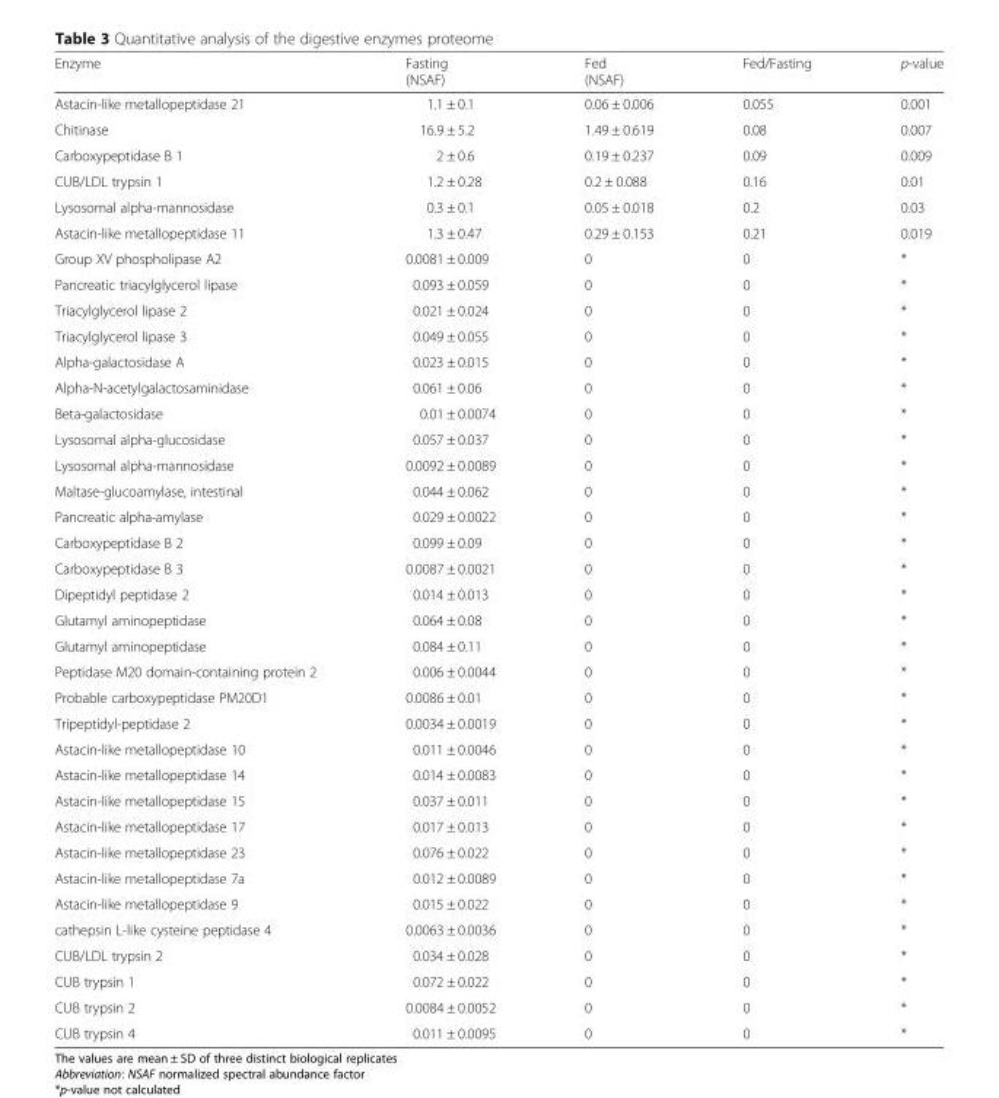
<table><thead><tr><td>Enzyme</td><td>Fasting (NSAF)</td><td>Fed (NSAF)</td><td>Fed/Fasting</td><td>p-value</td></tr></thead><tbody><tr><td>Astacin-like metallopeptidase 21</td><td>1.1 ± 0.1</td><td>0.06 ± 0.006</td><td>0.055</td><td>0.001</td></tr><tr><td>Chitinase</td><td>16.9 ± 5.2</td><td>1.49 ± 0.619</td><td>0.08</td><td>0.007</td></tr><tr><td>Carboxypeptidase B 1</td><td>2 ± 0.6</td><td>0.19 ± 0.237</td><td>0.09</td><td>0.009</td></tr><tr><td>CUB/LDL trypsin 1</td><td>1.2 ± 0.28</td><td>0.2 ± 0.088</td><td>0.16</td><td>0.01</td></tr><tr><td>Lysosomal alpha-mannosidase</td><td>0.3 ± 0.1</td><td>0.05 ± 0.018</td><td>0.2</td><td>0.03</td></tr><tr><td>Astacin-like metallopeptidase 11</td><td>1.3 ± 0.47</td><td>0.29 ± 0.153</td><td>0.21</td><td>0.019</td></tr><tr><td>Group XV phospholipase A2</td><td>0.0081 ± 0.009</td><td>0</td><td>0</td><td>*</td></tr><tr><td>Pancreatic triacylglycerol lipase</td><td>0.093 ± 0.059</td><td>0</td><td>0</td><td>*</td></tr><tr><td>Triacylglycerol lipase 2</td><td>0.021 ± 0.024</td><td>0</td><td>0</td><td>*</td></tr><tr><td>Triacylglycerol lipase 3</td><td>0.049 ± 0.055</td><td>0</td><td>0</td><td>*</td></tr><tr><td>Alpha-galactosidase A</td><td>0.023 ± 0.015</td><td>0</td><td>0</td><td>*</td></tr><tr><td>Alpha-N-acetylgalactosaminidase</td><td>0.061 ± 0.06</td><td>0</td><td>0</td><td>*</td></tr><tr><td>Beta-galactosidase</td><td>0.01 ± 0.0074</td><td>0</td><td>0</td><td>*</td></tr><tr><td>Lysosomal alpha-glucosidase</td><td>0.057 ± 0.037</td><td>0</td><td>0</td><td>*</td></tr><tr><td>Lysosomal alpha-mannosidase</td><td>0.0092 ± 0.0089</td><td>0</td><td>0</td><td>*</td></tr><tr><td>Maltase-glucoamylase, intestinal</td><td>0.044 ± 0.062</td><td>0</td><td>0</td><td>*</td></tr><tr><td>Pancreatic alpha-amylase</td><td>0.029 ± 0.0022</td><td>0</td><td>0</td><td>*</td></tr><tr><td>Carboxypeptidase B 2</td><td>0.099 ± 0.09</td><td>0</td><td>0</td><td>*</td></tr><tr><td>Carboxypeptidase B 3</td><td>0.0087 ± 0.0021</td><td>0</td><td>0</td><td>*</td></tr><tr><td>Dipeptidyl peptidase 2</td><td>0.014 ± 0.013</td><td>0</td><td>0</td><td>*</td></tr><tr><td>Glutamyl aminopeptidase</td><td>0.064 ± 0.08</td><td>0</td><td>0</td><td>*</td></tr><tr><td>Glutamyl aminopeptidase</td><td>0.084 ± 0.11</td><td>0</td><td>0</td><td>*</td></tr><tr><td>Peptidase M20 domain-containing protein 2</td><td>0.006 ± 0.0044</td><td>0</td><td>0</td><td>*</td></tr><tr><td>Probable carboxypeptidase PM20D1</td><td>0.0086 ± 0.01</td><td>0</td><td>0</td><td>*</td></tr><tr><td>Tripeptidyl-peptidase 2</td><td>0.0034 ± 0.0019</td><td>0</td><td>0</td><td>*</td></tr><tr><td>Astacin-like metallopeptidase 10</td><td>0.011 ± 0.0046</td><td>0</td><td>0</td><td>*</td></tr><tr><td>Astacin-like metallopeptidase 14</td><td>0.014 ± 0.0083</td><td>0</td><td>0</td><td>*</td></tr><tr><td>Astacin-like metallopeptidase 15</td><td>0.037 ± 0.011</td><td>0</td><td>0</td><td>*</td></tr><tr><td>Astacin-like metallopeptidase 17</td><td>0.017 ± 0.013</td><td>0</td><td>0</td><td>*</td></tr><tr><td>Astacin-like metallopeptidase 23</td><td>0.076 ± 0.022</td><td>0</td><td>0</td><td>*</td></tr><tr><td>Astacin-like metallopeptidase 7a</td><td>0.012 ± 0.0089</td><td>0</td><td>0</td><td>*</td></tr><tr><td>Astacin-like metallopeptidase 9</td><td>0.015 ± 0.022</td><td>0</td><td>0</td><td>*</td></tr><tr><td>cathepsin L-like cysteine peptidase 4</td><td>0.0063 ± 0.0036</td><td>0</td><td>0</td><td>*</td></tr><tr><td>CUB/LDL trypsin 2</td><td>0.034 ± 0.028</td><td>0</td><td>0</td><td>*</td></tr><tr><td>CUB trypsin 1</td><td>0.072 ± 0.022</td><td>0</td><td>0</td><td>*</td></tr><tr><td>CUB trypsin 2</td><td>0.0084 ± 0.0052</td><td>0</td><td>0</td><td>*</td></tr><tr><td>CUB trypsin 4</td><td>0.011 ± 0.0095</td><td>0</td><td>0</td><td>*</td></tr></tbody></table>